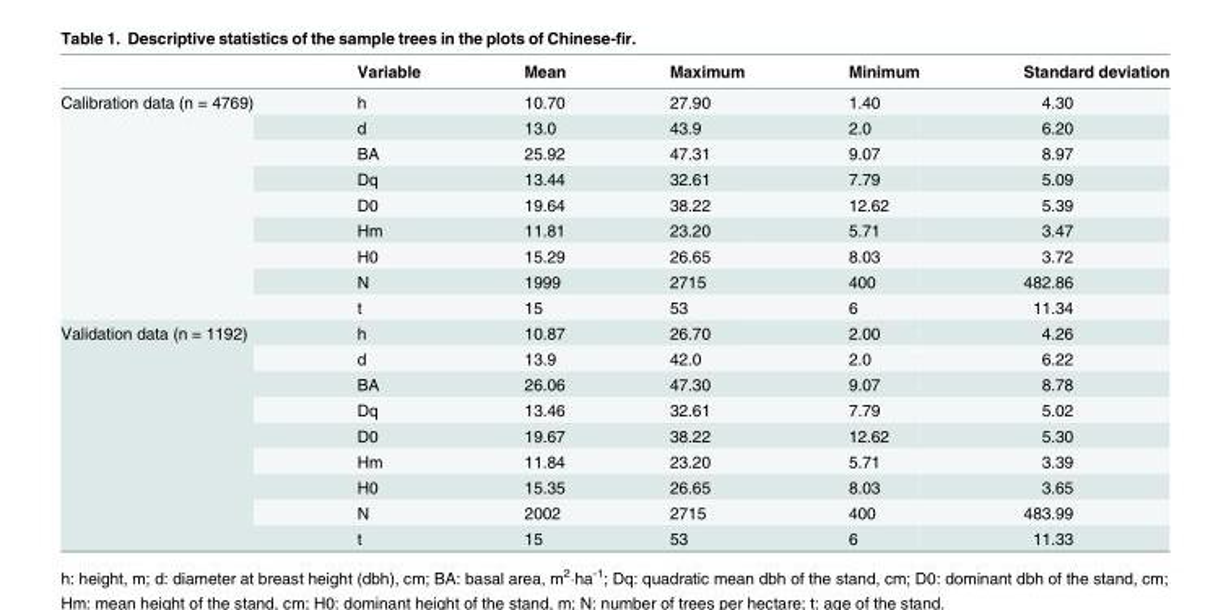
<table><thead><tr><td></td><td>Variable</td><td>Mean</td><td>Maximum</td><td>Minimum</td><td>Standard deviation</td></tr></thead><tbody><tr><td rowspan="9">Calibration data (n = 4769)</td><td>h</td><td>10.70</td><td>27.90</td><td>1.40</td><td>4.30</td></tr><tr><td>d</td><td>13.0</td><td>43.9</td><td>2.0</td><td>6.20</td></tr><tr><td>BA</td><td>25.92</td><td>47.31</td><td>9.07</td><td>8.97</td></tr><tr><td>Dq</td><td>13.44</td><td>32.61</td><td>7.79</td><td>5.09</td></tr><tr><td>D0</td><td>19.64</td><td>38.22</td><td>12.62</td><td>5.39</td></tr><tr><td>Hm</td><td>11.81</td><td>23.20</td><td>5.71</td><td>3.47</td></tr><tr><td>H0</td><td>15.29</td><td>26.65</td><td>8.03</td><td>3.72</td></tr><tr><td>N</td><td>1999</td><td>2715</td><td>400</td><td>482.86</td></tr><tr><td>t</td><td>15</td><td>53</td><td>6</td><td>11.34</td></tr><tr><td rowspan="9">Validation data (n = 1192)</td><td>h</td><td>10.87</td><td>26.70</td><td>2.00</td><td>4.26</td></tr><tr><td>d</td><td>13.9</td><td>42.0</td><td>2.0</td><td>6.22</td></tr><tr><td>BA</td><td>26.06</td><td>47.30</td><td>9.07</td><td>8.78</td></tr><tr><td>Dq</td><td>13.46</td><td>32.61</td><td>7.79</td><td>5.02</td></tr><tr><td>D0</td><td>19.67</td><td>38.22</td><td>12.62</td><td>5.30</td></tr><tr><td>Hm</td><td>11.84</td><td>23.20</td><td>5.71</td><td>3.39</td></tr><tr><td>H0</td><td>15.35</td><td>26.65</td><td>8.03</td><td>3.65</td></tr><tr><td>N</td><td>2002</td><td>2715</td><td>400</td><td>483.99</td></tr><tr><td>t</td><td>15</td><td>53</td><td>6</td><td>11.33</td></tr></tbody></table>